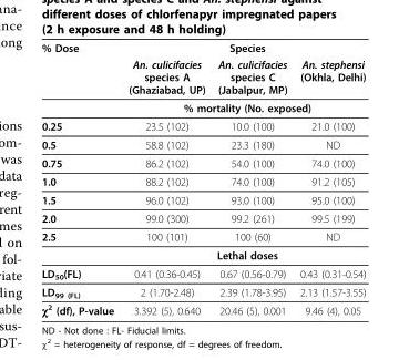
<table><thead><tr><td rowspan="2">% Dose</td><td colspan="3">Species</td></tr><tr><td>An. culicifacies species A (Ghaziabad, UP)</td><td>An. culicifacies species C (Jabalpur, MP)</td><td>An. stephensi (Okhla, Delhi)</td></tr></thead><tbody><tr><td></td><td colspan="3">% mortality (No. exposed)</td></tr><tr><td>0.25</td><td>23.5 (102)</td><td>10.0 (100)</td><td>21.0 (100)</td></tr><tr><td>0.5</td><td>58.8 (102)</td><td>23.3 (180)</td><td>ND</td></tr><tr><td>0.75</td><td>86.2 (102)</td><td>54.0 (100)</td><td>74.0 (100)</td></tr><tr><td>1.0</td><td>88.2 (102)</td><td>74.0 (100)</td><td>91.2 (105)</td></tr><tr><td>1.5</td><td>96.0 (102)</td><td>93.0 (100)</td><td>95.0 (100)</td></tr><tr><td>2.0</td><td>99.0 (300)</td><td>99.2 (261)</td><td>99.5 (199)</td></tr><tr><td rowspan="2">2.5</td><td>100 (101)</td><td>100 (60)</td><td>ND</td></tr><tr><td colspan="3">Lethal doses</td></tr><tr><td>LD<sub>50</sub>(FL)</td><td>0.41 (0.36-0.45)</td><td>0.67 (0.56-0.79)</td><td>0.43 (0.31-0.54)</td></tr><tr><td>LD<sub>99 (FL)</sub></td><td>2 (1.70-2.48)</td><td>2.39 (1.78-3.95)</td><td>2.13 (1.57-3.55)</td></tr><tr><td>χ<sup>2</sup> (df), P-value</td><td>3.392 (5), 0.640</td><td>20.46 (5), 0.001</td><td>9.46 (4), 0.05</td></tr></tbody></table>